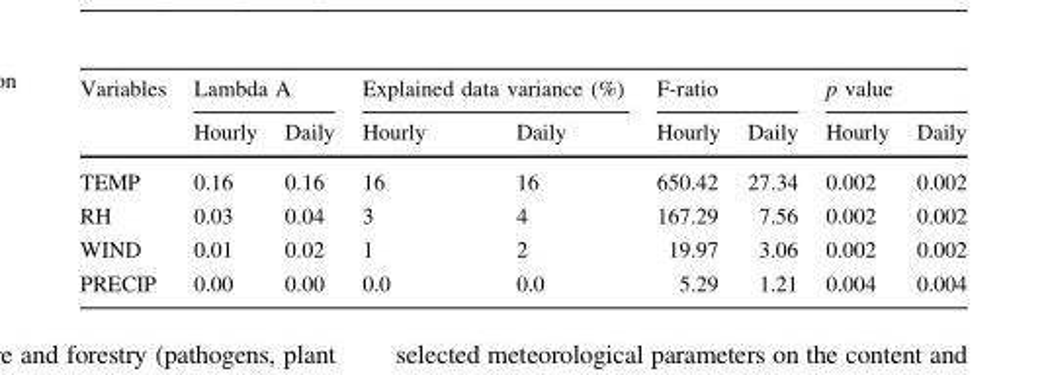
<table><thead><tr><td rowspan="2">Variables</td><td colspan="2">Lambda A</td><td colspan="2">Explained data variance (%)</td><td colspan="2">F-ratio</td><td colspan="2">p value</td></tr><tr><td>Hourly</td><td>Daily</td><td>Hourly</td><td>Daily</td><td>Hourly</td><td>Daily</td><td>Hourly</td><td>Daily</td></tr></thead><tbody><tr><td>TEMP</td><td>0.16</td><td>0.16</td><td>16</td><td>16</td><td>650.42</td><td>27.34</td><td>0.002</td><td>0.002</td></tr><tr><td>RH</td><td>0.03</td><td>0.04</td><td>3</td><td>4</td><td>167.29</td><td>7.56</td><td>0.002</td><td>0.002</td></tr><tr><td>WIND</td><td>0.01</td><td>0.02</td><td>1</td><td>2</td><td>19.97</td><td>3.06</td><td>0.002</td><td>0.002</td></tr><tr><td>PRECIP</td><td>0.00</td><td>0.00</td><td>0.0</td><td>0.0</td><td>5.29</td><td>1.21</td><td>0.004</td><td>0.004</td></tr></tbody></table>